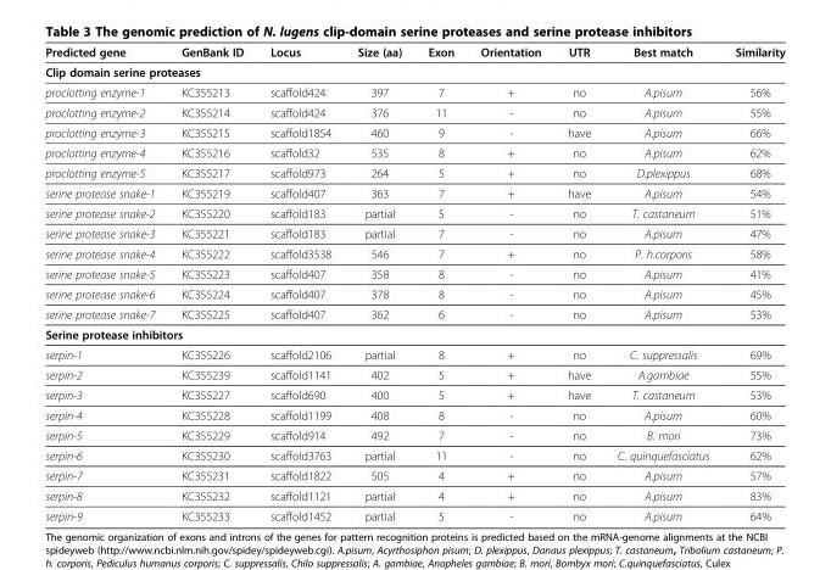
<table><thead><tr><td>Predicted gene</td><td>GenBank ID</td><td>Locus</td><td>Size (aa)</td><td>Exon</td><td>Orientation</td><td>UTR</td><td>Best match</td><td>Similarity</td></tr></thead><tbody><tr><td colspan="9">Clip domain serine proteases</td></tr><tr><td>proclotting enzyme-1</td><td>KC355213</td><td>scaffold424</td><td>397</td><td>7</td><td>+</td><td>no</td><td>A.pisum</td><td>56%</td></tr><tr><td>proclotting enzyme-2</td><td>KC355214</td><td>scaffold424</td><td>376</td><td>11</td><td>-</td><td>no</td><td>A.pisum</td><td>55%</td></tr><tr><td>proclotting enzyme-3</td><td>KC355215</td><td>scaffold1854</td><td>460</td><td>9</td><td>-</td><td>have</td><td>A.pisum</td><td>66%</td></tr><tr><td>proclotting enzyme-4</td><td>KC355216</td><td>scaffold32</td><td>535</td><td>8</td><td>+</td><td>no</td><td>A.pisum</td><td>62%</td></tr><tr><td>proclotting enzyme-5</td><td>KC355217</td><td>scaffold973</td><td>264</td><td>5</td><td>+</td><td>no</td><td>D.plexippus</td><td>68%</td></tr><tr><td>serine protease snake-1</td><td>KC355219</td><td>scaffold407</td><td>363</td><td>7</td><td>+</td><td>have</td><td>A.pisum</td><td>54%</td></tr><tr><td>serine protease snake-2</td><td>KC355220</td><td>scaffold183</td><td>partial</td><td>5</td><td>-</td><td>no</td><td>T. castaneum</td><td>51%</td></tr><tr><td>serine protease snake-3</td><td>KC355221</td><td>scaffold183</td><td>partial</td><td>7</td><td>-</td><td>no</td><td>A.pisum</td><td>47%</td></tr><tr><td>serine protease snake-4</td><td>KC355222</td><td>scaffold3538</td><td>546</td><td>7</td><td>+</td><td>no</td><td>P. h.corporis</td><td>58%</td></tr><tr><td>serine protease snake-5</td><td>KC355223</td><td>scaffold407</td><td>358</td><td>8</td><td>-</td><td>no</td><td>A.pisum</td><td>41%</td></tr><tr><td>serine protease snake-6</td><td>KC355224</td><td>scaffold407</td><td>378</td><td>8</td><td>-</td><td>no</td><td>A.pisum</td><td>45%</td></tr><tr><td>serine protease snake-7</td><td>KC355225</td><td>scaffold407</td><td>362</td><td>6</td><td>-</td><td>no</td><td>A.pisum</td><td>53%</td></tr><tr><td colspan="9">Serine protease inhibitors</td></tr><tr><td>serpin-1</td><td>KC355226</td><td>scaffold2106</td><td>partial</td><td>8</td><td>+</td><td>no</td><td>C. suppressalis</td><td>69%</td></tr><tr><td>serpin-2</td><td>KC355239</td><td>scaffold1141</td><td>402</td><td>5</td><td>+</td><td>have</td><td>A.gambiae</td><td>55%</td></tr><tr><td>serpin-3</td><td>KC355227</td><td>scaffold690</td><td>400</td><td>5</td><td>+</td><td>have</td><td>T. castaneum</td><td>53%</td></tr><tr><td>serpin-4</td><td>KC355228</td><td>scaffold1199</td><td>408</td><td>8</td><td>-</td><td>no</td><td>A.pisum</td><td>60%</td></tr><tr><td>serpin-5</td><td>KC355229</td><td>scaffold914</td><td>492</td><td>7</td><td>-</td><td>no</td><td>B. mori</td><td>73%</td></tr><tr><td>serpin-6</td><td>KC355230</td><td>scaffold3763</td><td>partial</td><td>11</td><td>-</td><td>no</td><td>C. quinquefasciatus</td><td>62%</td></tr><tr><td>serpin-7</td><td>KC355231</td><td>scaffold1822</td><td>505</td><td>4</td><td>+</td><td>no</td><td>A.pisum</td><td>57%</td></tr><tr><td>serpin-8</td><td>KC355232</td><td>scaffold1121</td><td>partial</td><td>4</td><td>+</td><td>no</td><td>A.pisum</td><td>83%</td></tr><tr><td>serpin-9</td><td>KC355233</td><td>scaffold1452</td><td>partial</td><td>5</td><td>-</td><td>no</td><td>A.pisum</td><td>64%</td></tr></tbody></table>